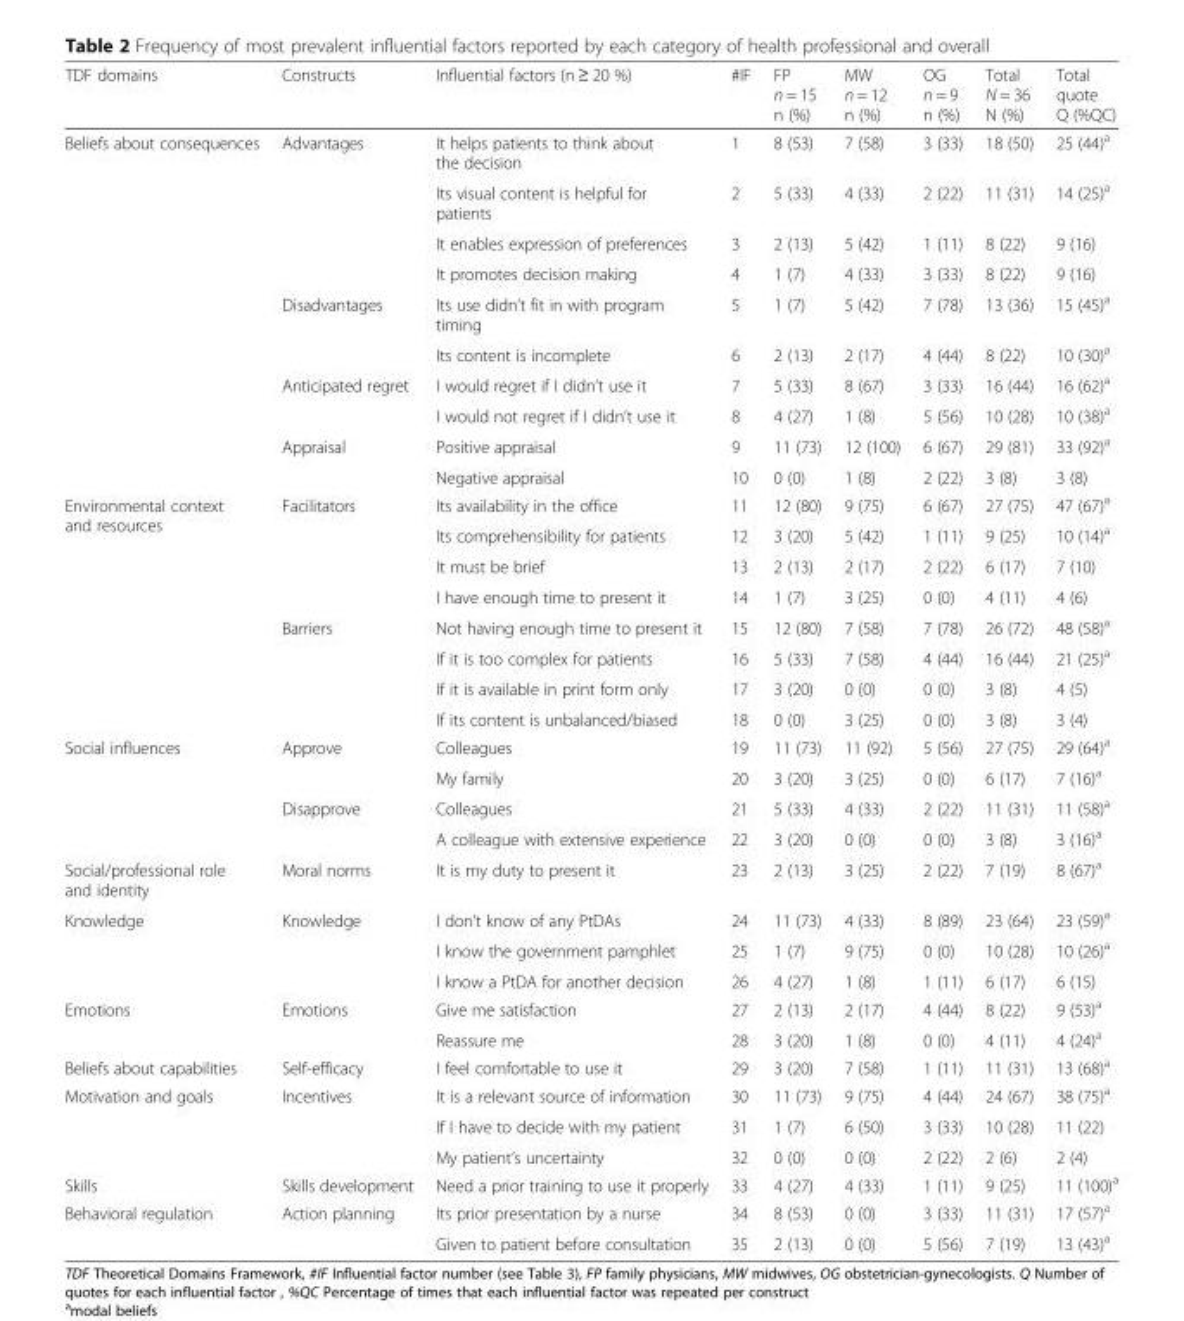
<table><thead><tr><td>TDF domains</td><td>Constructs</td><td>Influential factors (n ≥ 20 %)</td><td>#IF</td><td>FP n = 15 n (%)</td><td>MW n = 12 n (%)</td><td>OG n = 9 n (%)</td><td>Total N = 36 N (%)</td><td>Total quote Q (%QC)</td></tr></thead><tbody><tr><td rowspan="10">Beliefs about consequences</td><td rowspan="4">Advantages</td><td>It helps patients to think about the decision</td><td>1</td><td>8 (53)</td><td>7 (58)</td><td>3 (33)</td><td>18 (50)</td><td>25 (44)<sup>a</sup></td></tr><tr><td>Its visual content is helpful for patients</td><td>2</td><td>5 (33)</td><td>4 (33)</td><td>2 (22)</td><td>11 (31)</td><td>14 (25)<sup>a</sup></td></tr><tr><td>It enables expression of preferences</td><td>3</td><td>2 (13)</td><td>5 (42)</td><td>1 (11)</td><td>8 (22)</td><td>9 (16)</td></tr><tr><td>It promotes decision making</td><td>4</td><td>1 (7)</td><td>4 (33)</td><td>3 (33)</td><td>8 (22)</td><td>9 (16)</td></tr><tr><td rowspan="2">Disadvantages</td><td>Its use didn’t fit in with program timing</td><td>5</td><td>1 (7)</td><td>5 (42)</td><td>7 (78)</td><td>13 (36)</td><td>15 (45)<sup>a</sup></td></tr><tr><td>Its content is incomplete</td><td>6</td><td>2 (13)</td><td>2 (17)</td><td>4 (44)</td><td>8 (22)</td><td>10 (30)<sup>a</sup></td></tr><tr><td rowspan="2">Anticipated regret</td><td>I would regret if I didn’t use it</td><td>7</td><td>5 (33)</td><td>8 (67)</td><td>3 (33)</td><td>16 (44)</td><td>16 (62)<sup>a</sup></td></tr><tr><td>I would not regret if I didn’t use it</td><td>8</td><td>4 (27)</td><td>1 (8)</td><td>5 (56)</td><td>10 (28)</td><td>10 (38)<sup>a</sup></td></tr><tr><td rowspan="2">Appraisal</td><td>Positive appraisal</td><td>9</td><td>11 (73)</td><td>12 (100)</td><td>6 (67)</td><td>29 (81)</td><td>33 (92)<sup>a</sup></td></tr><tr><td>Negative appraisal</td><td>10</td><td>0 (0)</td><td>1 (8)</td><td>2 (22)</td><td>3 (8)</td><td>3 (8)</td></tr><tr><td rowspan="8">Environmental context and resources</td><td rowspan="4">Facilitators</td><td>Its availability in the office</td><td>11</td><td>12 (80)</td><td>9 (75)</td><td>6 (67)</td><td>27 (75)</td><td>47 (67)<sup>a</sup></td></tr><tr><td>Its comprehensibility for patients</td><td>12</td><td>3 (20)</td><td>5 (42)</td><td>1 (11)</td><td>9 (25)</td><td>10 (14)<sup>a</sup></td></tr><tr><td>It must be brief</td><td>13</td><td>2 (13)</td><td>2 (17)</td><td>2 (22)</td><td>6 (17)</td><td>7 (10)</td></tr><tr><td>I have enough time to present it</td><td>14</td><td>1 (7)</td><td>3 (25)</td><td>0 (0)</td><td>4 (11)</td><td>4 (6)</td></tr><tr><td rowspan="4">Barriers</td><td>Not having enough time to present it</td><td>15</td><td>12 (80)</td><td>7 (58)</td><td>7 (78)</td><td>26 (72)</td><td>48 (58)<sup>a</sup></td></tr><tr><td>If it is too complex for patients</td><td>16</td><td>5 (33)</td><td>7 (58)</td><td>4 (44)</td><td>16 (44)</td><td>21 (25)<sup>a</sup></td></tr><tr><td>If it is available in print form only</td><td>17</td><td>3 (20)</td><td>0 (0)</td><td>0 (0)</td><td>3 (8)</td><td>4 (5)</td></tr><tr><td>If its content is unbalanced/biased</td><td>18</td><td>0 (0)</td><td>3 (25)</td><td>0 (0)</td><td>3 (8)</td><td>3 (4)</td></tr><tr><td rowspan="4">Social influences</td><td rowspan="2">Approve</td><td>Colleagues</td><td>19</td><td>11 (73)</td><td>11 (92)</td><td>5 (56)</td><td>27 (75)</td><td>29 (64)<sup>a</sup></td></tr><tr><td>My family</td><td>20</td><td>3 (20)</td><td>3 (25)</td><td>0 (0)</td><td>6 (17)</td><td>7 (16)<sup>a</sup></td></tr><tr><td rowspan="2">Disapprove</td><td>Colleagues</td><td>21</td><td>5 (33)</td><td>4 (33)</td><td>2 (22)</td><td>11 (31)</td><td>11 (58)<sup>a</sup></td></tr><tr><td>A colleague with extensive experience</td><td>22</td><td>3 (20)</td><td>0 (0)</td><td>0 (0)</td><td>3 (8)</td><td>3 (16)<sup>a</sup></td></tr><tr><td>Social/professional role and identity</td><td>Moral norms</td><td>It is my duty to present it</td><td>23</td><td>2 (13)</td><td>3 (25)</td><td>2 (22)</td><td>7 (19)</td><td>8 (67)<sup>a</sup></td></tr><tr><td rowspan="3">Knowledge</td><td rowspan="3">Knowledge</td><td>I don’t know of any PtDAs</td><td>24</td><td>11 (73)</td><td>4 (33)</td><td>8 (89)</td><td>23 (64)</td><td>23 (59)<sup>a</sup></td></tr><tr><td>I know the government pamphlet</td><td>25</td><td>1 (7)</td><td>9 (75)</td><td>0 (0)</td><td>10 (28)</td><td>10 (26)<sup>a</sup></td></tr><tr><td>I know a PtDA for another decision</td><td>26</td><td>4 (27)</td><td>1 (8)</td><td>1 (11)</td><td>6 (17)</td><td>6 (15)</td></tr><tr><td rowspan="2">Emotions</td><td rowspan="2">Emotions</td><td>Give me satisfaction</td><td>27</td><td>2 (13)</td><td>2 (17)</td><td>4 (44)</td><td>8 (22)</td><td>9 (53)<sup>a</sup></td></tr><tr><td>Reassure me</td><td>28</td><td>3 (20)</td><td>1 (8)</td><td>0 (0)</td><td>4 (11)</td><td>4 (24)<sup>a</sup></td></tr><tr><td>Beliefs about capabilities</td><td>Self-efficacy</td><td>I feel comfortable to use it</td><td>29</td><td>3 (20)</td><td>7 (58)</td><td>1 (11)</td><td>11 (31)</td><td>13 (68)<sup>a</sup></td></tr><tr><td rowspan="3">Motivation and goals</td><td rowspan="3">Incentives</td><td>It is a relevant source of information</td><td>30</td><td>11 (73)</td><td>9 (75)</td><td>4 (44)</td><td>24 (67)</td><td>38 (75)<sup>a</sup></td></tr><tr><td>If I have to decide with my patient</td><td>31</td><td>1 (7)</td><td>6 (50)</td><td>3 (33)</td><td>10 (28)</td><td>11 (22)</td></tr><tr><td>My patient’s uncertainty</td><td>32</td><td>0 (0)</td><td>0 (0)</td><td>2 (22)</td><td>2 (6)</td><td>2 (4)</td></tr><tr><td>Skills</td><td>Skills development</td><td>Need a prior training to use it properly</td><td>33</td><td>4 (27)</td><td>4 (33)</td><td>1 (11)</td><td>9 (25)</td><td>11 (100)<sup>a</sup></td></tr><tr><td rowspan="2">Behavioral regulation</td><td rowspan="2">Action planning</td><td>Its prior presentation by a nurse</td><td>34</td><td>8 (53)</td><td>0 (0)</td><td>3 (33)</td><td>11 (31)</td><td>17 (57)<sup>a</sup></td></tr><tr><td>Given to patient before consultation</td><td>35</td><td>2 (13)</td><td>0 (0)</td><td>5 (56)</td><td>7 (19)</td><td>13 (43)<sup>a</sup></td></tr></tbody></table>